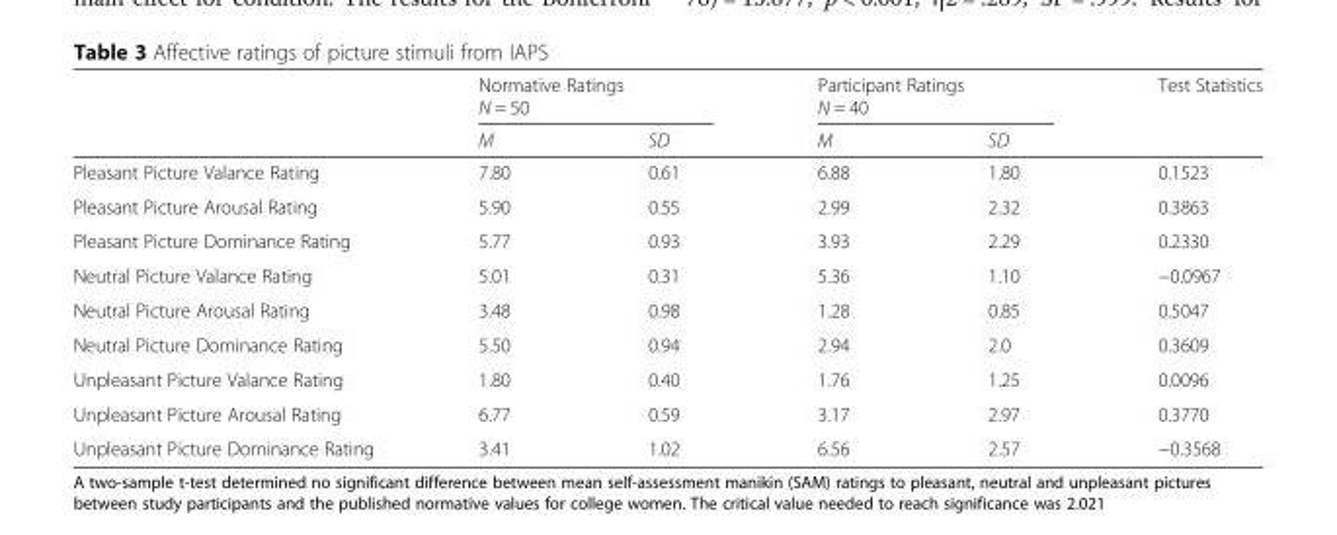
<table><thead><tr><td rowspan="2"></td><td colspan="2">Normative Ratings N = 50</td><td colspan="2">Participant Ratings N = 40</td><td rowspan="2">Test Statistics</td></tr><tr><td>M</td><td>SD</td><td>M</td><td>SD</td></tr></thead><tbody><tr><td>Pleasant Picture Valance Rating</td><td>7.80</td><td>0.61</td><td>6.88</td><td>1.80</td><td>0.1523</td></tr><tr><td>Pleasant Picture Arousal Rating</td><td>5.90</td><td>0.55</td><td>2.99</td><td>2.32</td><td>0.3863</td></tr><tr><td>Pleasant Picture Dominance Rating</td><td>5.77</td><td>0.93</td><td>3.93</td><td>2.29</td><td>0.2330</td></tr><tr><td>Neutral Picture Valance Rating</td><td>5.01</td><td>0.31</td><td>5.36</td><td>1.10</td><td>−0.0967</td></tr><tr><td>Neutral Picture Arousal Rating</td><td>3.48</td><td>0.98</td><td>1.28</td><td>0.85</td><td>0.5047</td></tr><tr><td>Neutral Picture Dominance Rating</td><td>5.50</td><td>0.94</td><td>2.94</td><td>2.0</td><td>0.3609</td></tr><tr><td>Unpleasant Picture Valance Rating</td><td>1.80</td><td>0.40</td><td>1.76</td><td>1.25</td><td>0.0096</td></tr><tr><td>Unpleasant Picture Arousal Rating</td><td>6.77</td><td>0.59</td><td>3.17</td><td>2.97</td><td>0.3770</td></tr><tr><td>Unpleasant Picture Dominance Rating</td><td>3.41</td><td>1.02</td><td>6.56</td><td>2.57</td><td>−0.3568</td></tr></tbody></table>